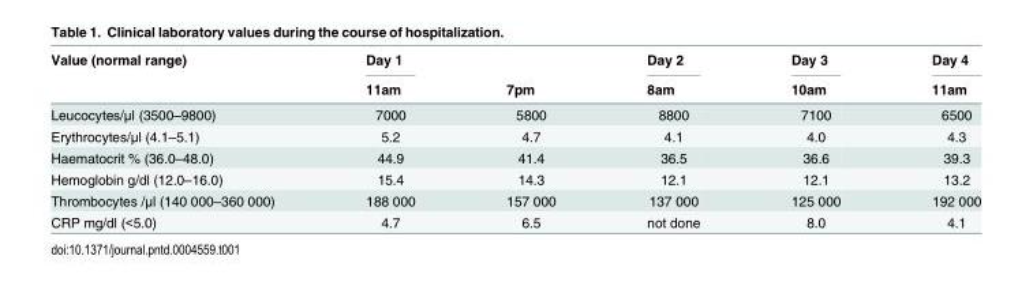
<table><thead><tr><td rowspan="2">Value (normal range)</td><td rowspan="2">Day 1 11am</td><td rowspan="2">7pm</td><td rowspan="2">Day 2 8am</td><td rowspan="2">Day 3 10am</td><td rowspan="2">Day 4 11am</td></tr><tr></tr></thead><tbody><tr><td>Leucocytes/μl (3500–9800)</td><td>7000</td><td>5800</td><td>8800</td><td>7100</td><td>6500</td></tr><tr><td>Erythrocytes/μl (4.1–5.1)</td><td>5.2</td><td>4.7</td><td>4.1</td><td>4.0</td><td>4.3</td></tr><tr><td>Haematocrit % (36.0–48.0)</td><td>44.9</td><td>41.4</td><td>36.5</td><td>36.6</td><td>39.3</td></tr><tr><td>Hemoglobin g/dl (12.0–16.0)</td><td>15.4</td><td>14.3</td><td>12.1</td><td>12.1</td><td>13.2</td></tr><tr><td>Thrombocytes /μl (140 000–360 000)</td><td>188 000</td><td>157 000</td><td>137 000</td><td>125 000</td><td>192 000</td></tr><tr><td>CRP mg/dl (&lt;5.0)</td><td>4.7</td><td>6.5</td><td>not done</td><td>8.0</td><td>4.1</td></tr></tbody></table>